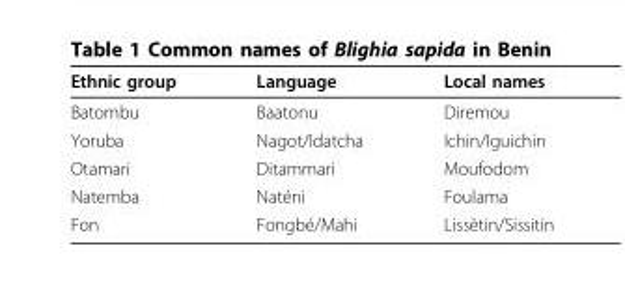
<table><thead><tr><td>Ethnic group</td><td>Language</td><td>Local names</td></tr></thead><tbody><tr><td>Batombu</td><td>Baatonu</td><td>Diremou</td></tr><tr><td>Yoruba</td><td>Nagot/Idatcha</td><td>Ichin/Iguichin</td></tr><tr><td>Otamari</td><td>Ditammari</td><td>Moufodom</td></tr><tr><td>Natemba</td><td>Naténi</td><td>Foulama</td></tr><tr><td>Fon</td><td>Fongbé/Mahi</td><td>Lissètin/Sissitin</td></tr></tbody></table>